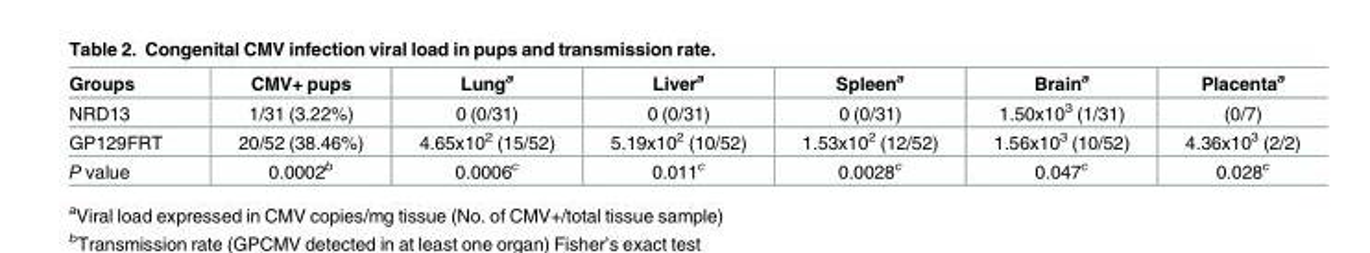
<table><thead><tr><td>Groups</td><td>CMV+ pups</td><td>Lung<sup>a</sup></td><td>Liver<sup>a</sup></td><td>Spleen<sup>a</sup></td><td>Brain<sup>a</sup></td><td>Placenta<sup>a</sup></td></tr></thead><tbody><tr><td>NRD13</td><td>1/31 (3.22%)</td><td>0 (0/31)</td><td>0 (0/31)</td><td>0 (0/31)</td><td>1.50x10<sup>3</sup> (1/31)</td><td>(0/7)</td></tr><tr><td>GP129FRT</td><td>20/52 (38.46%)</td><td>4.65x10<sup>2</sup> (15/52)</td><td>5.19x10<sup>2</sup> (10/52)</td><td>1.53x10<sup>2</sup> (12/52)</td><td>1.56x10<sup>3</sup> (10/52)</td><td>4.36x10<sup>3</sup> (2/2)</td></tr><tr><td>P value</td><td>0.0002<sup>b</sup></td><td>0.0006<sup>c</sup></td><td>0.011<sup>c</sup></td><td>0.0028<sup>c</sup></td><td>0.047<sup>c</sup></td><td>0.028<sup>c</sup></td></tr></tbody></table>